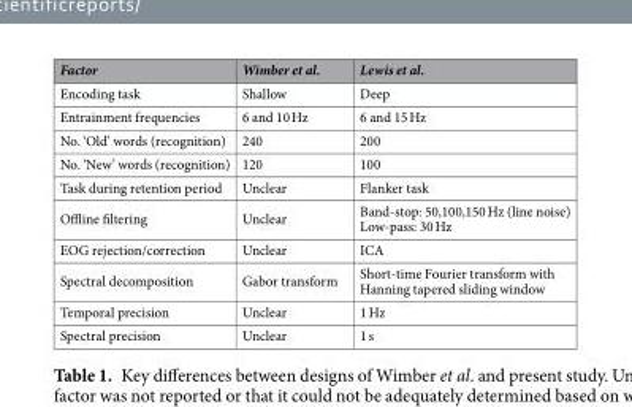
<table><thead><tr><td>Factor</td><td>Wimber et al.</td><td>Lewis et al.</td></tr></thead><tbody><tr><td>Encoding task</td><td>Shallow</td><td>Deep</td></tr><tr><td>Entrainment frequencies</td><td>6 and 10 Hz</td><td>6 and 15 Hz</td></tr><tr><td>No. ‘Old’ words (recognition)</td><td>240</td><td>200</td></tr><tr><td>No. ‘New’ words (recognition)</td><td>120</td><td>100</td></tr><tr><td>Task during retention period</td><td>Unclear</td><td>Flanker task</td></tr><tr><td>Offline filtering</td><td>Unclear</td><td>Band-stop: 50,100,150 Hz (line noise) Low-pass: 30 Hz</td></tr><tr><td>EOG rejection/correction</td><td>Unclear</td><td>ICA</td></tr><tr><td>Spectral decomposition</td><td>Gabor transform</td><td>Short-time Fourier transform with Hanning tapered sliding window</td></tr><tr><td>Temporal precision</td><td>Unclear</td><td>1 Hz</td></tr><tr><td>Spectral precision</td><td>Unclear</td><td>1 s</td></tr></tbody></table>